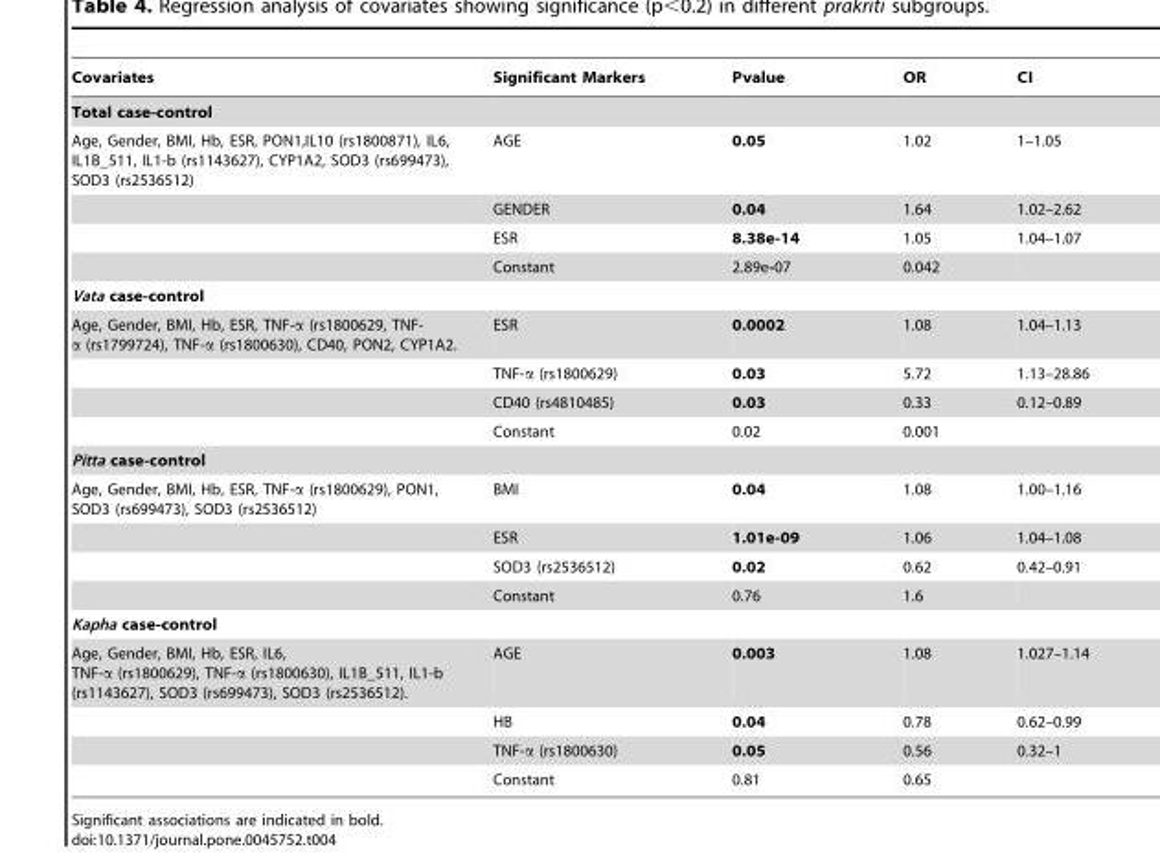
<table><thead><tr><td>Covariates</td><td>Significant Markers</td><td>Pvalue</td><td>OR</td><td>CI</td></tr></thead><tbody><tr><td colspan="5">Total case-control</td></tr><tr><td rowspan="4">Age, Gender, BMI, Hb, ESR, PON1,IL10 (rs1800871), IL6, IL1B_511, IL1-b (rs1143627), CYP1A2, SOD3 (rs699473), SOD3 (rs2536512)</td><td>AGE</td><td>0.05</td><td>1.02</td><td>1–1.05</td></tr><tr><td>GENDER</td><td>0.04</td><td>1.64</td><td>1.02–2.62</td></tr><tr><td>ESR</td><td>8.38e-14</td><td>1.05</td><td>1.04–1.07</td></tr><tr><td>Constant</td><td>2.89e-07</td><td>0.042</td><td></td></tr><tr><td colspan="5">Vata case-control</td></tr><tr><td rowspan="4">Age, Gender, BMI, Hb, ESR, TNF-α (rs1800629, TNF- α (rs1799724), TNF-α (rs1800630), CD40, PON2, CYP1A2.</td><td>ESR</td><td>0.0002</td><td>1.08</td><td>1.04–1.13</td></tr><tr><td>TNF-α (rs1800629)</td><td>0.03</td><td>5.72</td><td>1.13–28.86</td></tr><tr><td>CD40 (rs4810485)</td><td>0.03</td><td>0.33</td><td>0.12–0.89</td></tr><tr><td>Constant</td><td>0.02</td><td>0.001</td><td></td></tr><tr><td colspan="5">Pitta case-control</td></tr><tr><td rowspan="4">Age, Gender, BMI, Hb, ESR, TNF-α (rs1800629), PON1, SOD3 (rs699473), SOD3 (rs2536512)</td><td>BMI</td><td>0.04</td><td>1.08</td><td>1.00–1.16</td></tr><tr><td>ESR</td><td>1.01e-09</td><td>1.06</td><td>1.04–1.08</td></tr><tr><td>SOD3 (rs2536512)</td><td>0.02</td><td>0.62</td><td>0.42–0.91</td></tr><tr><td>Constant</td><td>0.76</td><td>1.6</td><td></td></tr><tr><td colspan="5">Kapha case-control</td></tr><tr><td rowspan="4">Age, Gender, BMI, Hb, ESR, IL6, TNF-α (rs1800629), TNF-α (rs1800630), IL1B_511, IL1-b (rs1143627), SOD3 (rs699473), SOD3 (rs2536512).</td><td>AGE</td><td>0.003</td><td>1.08</td><td>1.027–1.14</td></tr><tr><td>HB</td><td>0.04</td><td>0.78</td><td>0.62–0.99</td></tr><tr><td>TNF-α (rs1800630)</td><td>0.05</td><td>0.56</td><td>0.32–1</td></tr><tr><td>Constant</td><td>0.81</td><td>0.65</td><td></td></tr></tbody></table>